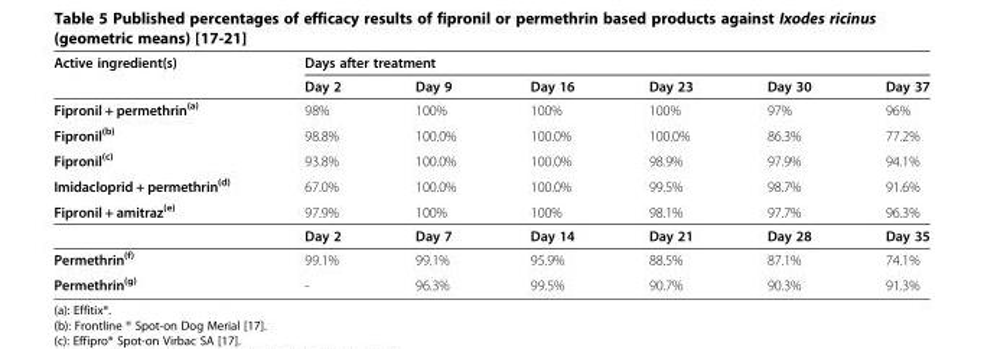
<table><thead><tr><td rowspan="2">Active ingredient(s)</td><td colspan="6">Days after treatment</td></tr><tr><td>Day 2</td><td>Day 9</td><td>Day 16</td><td>Day 23</td><td>Day 30</td><td>Day 37</td></tr></thead><tbody><tr><td>Fipronil + permethrin<sup>(a)</sup></td><td>98%</td><td>100%</td><td>100%</td><td>100%</td><td>97%</td><td>96%</td></tr><tr><td>Fipronil<sup>(b)</sup></td><td>98.8%</td><td>100.0%</td><td>100.0%</td><td>100.0%</td><td>86.3%</td><td>77.2%</td></tr><tr><td>Fipronil<sup>(c)</sup></td><td>93.8%</td><td>100.0%</td><td>100.0%</td><td>98.9%</td><td>97.9%</td><td>94.1%</td></tr><tr><td>Imidacloprid + permethrin<sup>(d)</sup></td><td>67.0%</td><td>100.0%</td><td>100.0%</td><td>99.5%</td><td>98.7%</td><td>91.6%</td></tr><tr><td rowspan="2">Fipronil + amitraz<sup>(e)</sup></td><td>97.9%</td><td>100%</td><td>100%</td><td>98.1%</td><td>97.7%</td><td>96.3%</td></tr><tr><td>Day 2</td><td>Day 7</td><td>Day 14</td><td>Day 21</td><td>Day 28</td><td>Day 35</td></tr><tr><td>Permethrin<sup>(f)</sup></td><td>99.1%</td><td>99.1%</td><td>95.9%</td><td>88.5%</td><td>87.1%</td><td>74.1%</td></tr><tr><td>Permethrin<sup>(g)</sup></td><td>-</td><td>96.3%</td><td>99.5%</td><td>90.7%</td><td>90.3%</td><td>91.3%</td></tr></tbody></table>